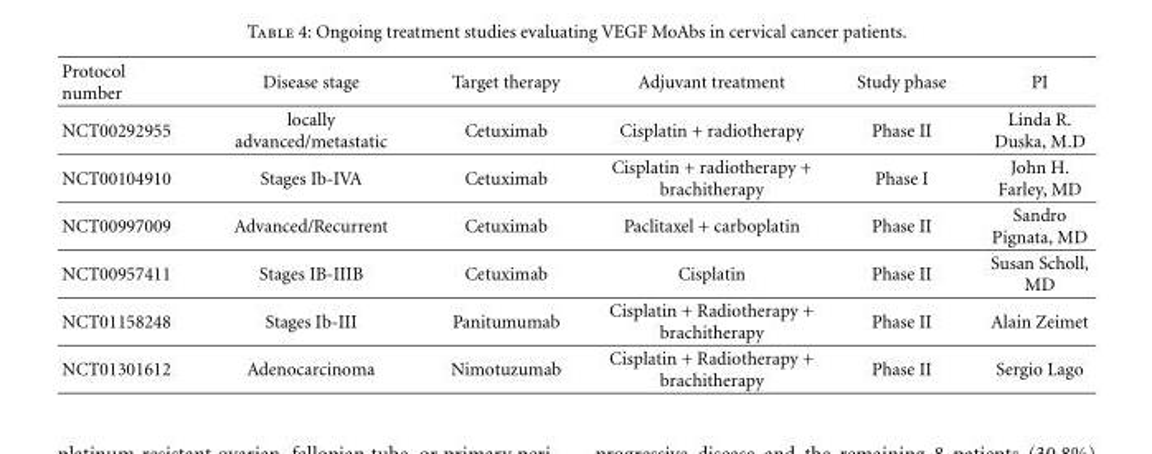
<table><thead><tr><td>Protocol number</td><td>Disease stage</td><td>Target therapy</td><td>Adjuvant treatment</td><td>Study phase</td><td>PI</td></tr></thead><tbody><tr><td>NCT00292955</td><td>locally advanced/metastatic</td><td>Cetuximab</td><td>Cisplatin + radiotherapy</td><td>Phase II</td><td>Linda R. Duska, M.D</td></tr><tr><td>NCT00104910</td><td>Stages Ib-IVA</td><td>Cetuximab</td><td>Cisplatin + radiotherapy + brachitherapy</td><td>Phase I</td><td>John H. Farley, MD</td></tr><tr><td>NCT00997009</td><td>Advanced/Recurrent</td><td>Cetuximab</td><td>Paclitaxel + carboplatin</td><td>Phase II</td><td>Sandro Pignata, MD</td></tr><tr><td>NCT00957411</td><td>Stages IB-IIIB</td><td>Cetuximab</td><td>Cisplatin</td><td>Phase II</td><td>Susan Scholl, MD</td></tr><tr><td>NCT01158248</td><td>Stages Ib-III</td><td>Panitumumab</td><td>Cisplatin + Radiotherapy + brachitherapy</td><td>Phase II</td><td>Alain Zeimet</td></tr><tr><td>NCT01301612</td><td>Adenocarcinoma</td><td>Nimotuzumab</td><td>Cisplatin + Radiotherapy + brachitherapy</td><td>Phase II</td><td>Sergio Lago</td></tr></tbody></table>